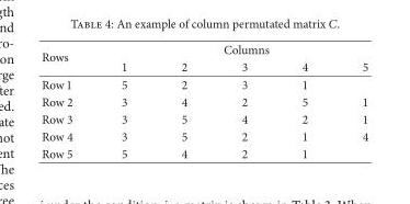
<table><thead><tr><td rowspan="2">Rows</td><td colspan="5">Columns</td></tr><tr><td>1</td><td>2</td><td>3</td><td>4</td><td>5</td></tr></thead><tbody><tr><td>Row 1</td><td>5</td><td>2</td><td>3</td><td>1</td><td></td></tr><tr><td>Row 2</td><td>3</td><td>4</td><td>2</td><td>5</td><td>1</td></tr><tr><td>Row 3</td><td>3</td><td>5</td><td>4</td><td>2</td><td>1</td></tr><tr><td>Row 4</td><td>3</td><td>5</td><td>2</td><td>1</td><td>4</td></tr><tr><td>Row 5</td><td>5</td><td>4</td><td>2</td><td>1</td><td></td></tr></tbody></table>